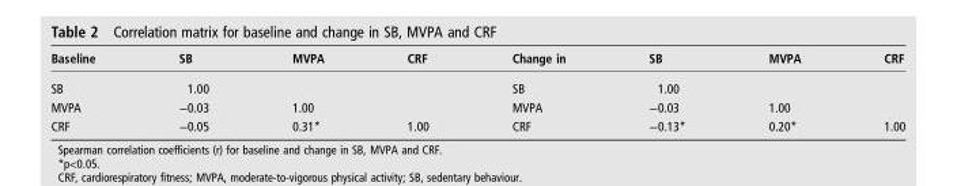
<table><thead><tr><td>Baseline</td><td>SB</td><td>MVPA</td><td>CRF</td><td>Change in</td><td>SB</td><td>MVPA</td><td>CRF</td></tr></thead><tbody><tr><td>SB</td><td>1.00</td><td></td><td></td><td>SB</td><td>1.00</td><td></td><td></td></tr><tr><td>MVPA</td><td>−0.03</td><td>1.00</td><td></td><td>MVPA</td><td>−0.03</td><td>1.00</td><td></td></tr><tr><td>CRF</td><td>−0.05</td><td>0.31*</td><td>1.00</td><td>CRF</td><td>−0.13*</td><td>0.20*</td><td>1.00</td></tr></tbody></table>